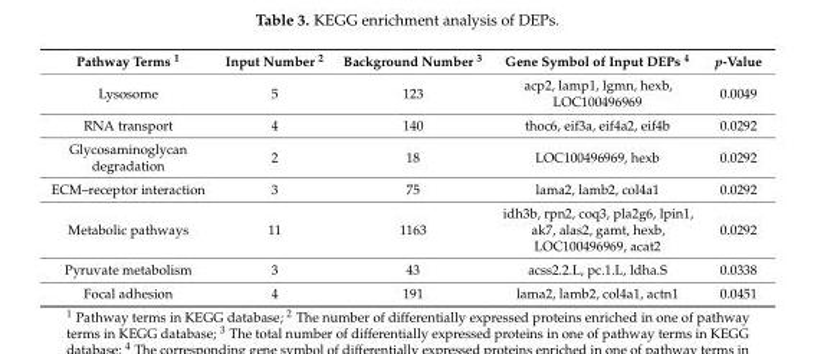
<table><thead><tr><td>Pathway Terms <sup>1</sup></td><td>Input Number <sup>2</sup></td><td>Background Number <sup>3</sup></td><td>Gene Symbol of Input DEPs <sup>4</sup></td><td>p-Value</td></tr></thead><tbody><tr><td>Lysosome</td><td>5</td><td>123</td><td>acp2, lamp1, lgmn, hexb, LOC100496969</td><td>0.0049</td></tr><tr><td>RNA transport</td><td>4</td><td>140</td><td>thoc6, eif3a, eif4a2, eif4b</td><td>0.0292</td></tr><tr><td>Glycosaminoglycan degradation</td><td>2</td><td>18</td><td>LOC100496969, hexb</td><td>0.0292</td></tr><tr><td>ECM–receptor interaction</td><td>3</td><td>75</td><td>lama2, lamb2, col4a1</td><td>0.0292</td></tr><tr><td>Metabolic pathways</td><td>11</td><td>1163</td><td>idh3b, rpn2, coq3, pla2g6, lpin1, ak7, alas2, gamt, hexb, LOC100496969, acat2</td><td>0.0292</td></tr><tr><td>Pyruvate metabolism</td><td>3</td><td>43</td><td>acss2.2.L, pc.1.L, ldha.S</td><td>0.0338</td></tr><tr><td>Focal adhesion</td><td>4</td><td>191</td><td>lama2, lamb2, col4a1, actn1</td><td>0.0451</td></tr></tbody></table>